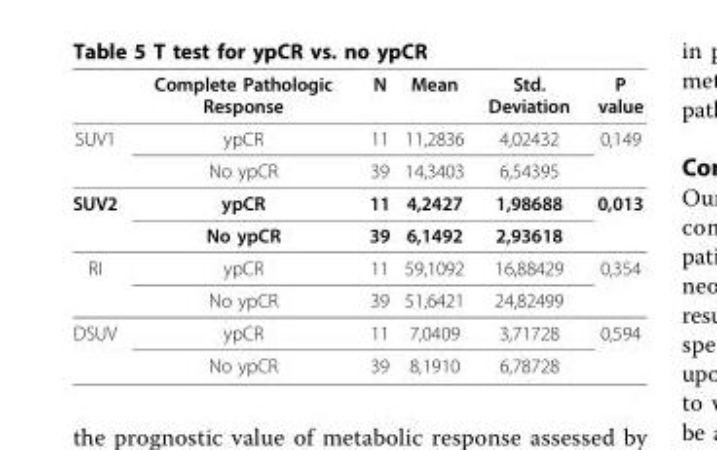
<table><thead><tr><td></td><td>Complete Pathologic Response</td><td>N</td><td>Mean</td><td>Std. Deviation</td><td>P value</td></tr></thead><tbody><tr><td rowspan="2">SUV1</td><td>ypCR</td><td>11</td><td>11,2836</td><td>4,02432</td><td>0,149</td></tr><tr><td>No ypCR</td><td>39</td><td>14,3403</td><td>6,54395</td><td></td></tr><tr><td rowspan="2">SUV2</td><td>ypCR</td><td>11</td><td>4,2427</td><td>1,98688</td><td>0,013</td></tr><tr><td>No ypCR</td><td>39</td><td>6,1492</td><td>2,93618</td><td></td></tr><tr><td rowspan="2">RI</td><td>ypCR</td><td>11</td><td>59,1092</td><td>16,88429</td><td>0,354</td></tr><tr><td>No ypCR</td><td>39</td><td>51,6421</td><td>24,82499</td><td></td></tr><tr><td rowspan="2">DSUV</td><td>ypCR</td><td>11</td><td>7,0409</td><td>3,71728</td><td>0,594</td></tr><tr><td>No ypCR</td><td>39</td><td>8,1910</td><td>6,78728</td><td></td></tr></tbody></table>